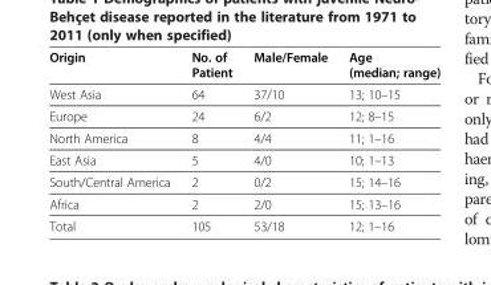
<table><thead><tr><td>Origin</td><td>No. of Patient</td><td>Male/Female</td><td>Age (median; range)</td></tr></thead><tbody><tr><td>West Asia</td><td>64</td><td>37/10</td><td>13; 10–15</td></tr><tr><td>Europe</td><td>24</td><td>6/2</td><td>12; 8–15</td></tr><tr><td>North America</td><td>8</td><td>4/4</td><td>11; 1–16</td></tr><tr><td>East Asia</td><td>5</td><td>4/0</td><td>10; 1–13</td></tr><tr><td>South/Central America</td><td>2</td><td>0/2</td><td>15; 14–16</td></tr><tr><td>Africa</td><td>2</td><td>2/0</td><td>15; 13–16</td></tr><tr><td>Total</td><td>105</td><td>53/18</td><td>12; 1–16</td></tr></tbody></table>